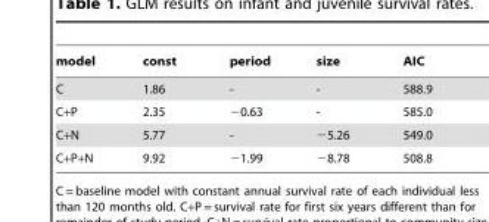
<table><thead><tr><td>model</td><td>const</td><td>period</td><td>size</td><td>AIC</td></tr></thead><tbody><tr><td>C</td><td>1.86</td><td>-</td><td>-</td><td>588.9</td></tr><tr><td>C+P</td><td>2.35</td><td>−0.63</td><td>-</td><td>585.0</td></tr><tr><td>C+N</td><td>5.77</td><td>-</td><td>−5.26</td><td>549.0</td></tr><tr><td>C+P+N</td><td>9.92</td><td>−1.99</td><td>−8.78</td><td>508.8</td></tr></tbody></table>